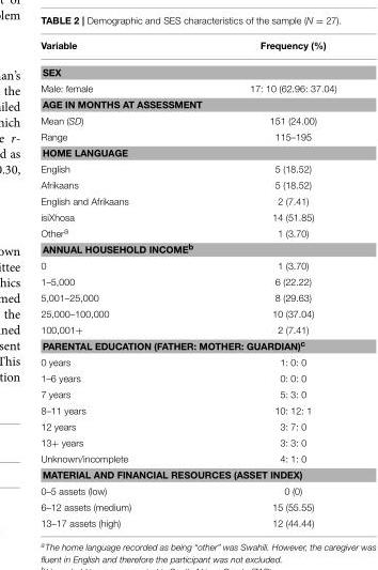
<table><thead><tr><td>Variable</td><td>Frequency (%)</td></tr></thead><tbody><tr><td colspan="2">SEX</td></tr><tr><td>Male: female</td><td>17: 10 (62.96: 37.04)</td></tr><tr><td colspan="2">AGE IN MONTHS AT ASSESSMENT</td></tr><tr><td>Mean (SD)</td><td>151 (24.00)</td></tr><tr><td>Range</td><td>115–195</td></tr><tr><td colspan="2">HOME LANGUAGE</td></tr><tr><td>English</td><td>5 (18.52)</td></tr><tr><td>Afrikaans</td><td>5 (18.52)</td></tr><tr><td>English and Afrikaans</td><td>2 (7.41)</td></tr><tr><td>isiXhosa</td><td>14 (51.85)</td></tr><tr><td>Other<sup>a</sup></td><td>1 (3.70)</td></tr><tr><td colspan="2">ANNUAL HOUSEHOLD INCOME<sup>b</sup></td></tr><tr><td>0</td><td>1 (3.70)</td></tr><tr><td>1–5,000</td><td>6 (22.22)</td></tr><tr><td>5,001–25,000</td><td>8 (29.63)</td></tr><tr><td>25,000–100,000</td><td>10 (37.04)</td></tr><tr><td>100,001+</td><td>2 (7.41)</td></tr><tr><td colspan="2">PARENTAL EDUCATION (FATHER: MOTHER: GUARDIAN)<sup>c</sup></td></tr><tr><td>0 years</td><td>1: 0: 0</td></tr><tr><td>1–6 years</td><td>0: 0: 0</td></tr><tr><td>7 years</td><td>5: 3: 0</td></tr><tr><td>8–11 years</td><td>10: 12: 1</td></tr><tr><td>12 years</td><td>3: 7: 0</td></tr><tr><td>13+ years</td><td>3: 3: 0</td></tr><tr><td>Unknown/incomplete</td><td>4: 1: 0</td></tr><tr><td colspan="2">MATERIAL AND FINANCIAL RESOURCES (ASSET INDEX)</td></tr><tr><td>0–5 assets (low)</td><td>0 (0)</td></tr><tr><td>6–12 assets (medium)</td><td>15 (55.55)</td></tr><tr><td>13–17 assets (high)</td><td>12 (44.44)</td></tr></tbody></table>